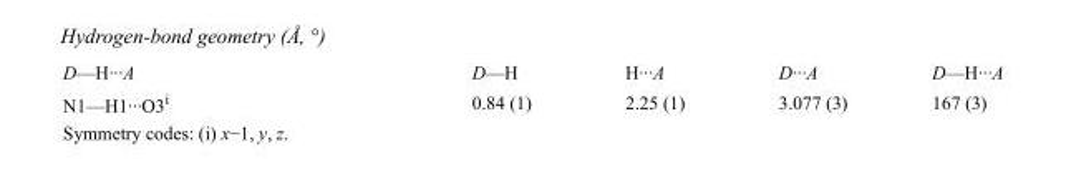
<table><tbody><tr><td>D—H···A</td><td>D—H</td><td>H···A</td><td>D···A</td><td>D—H···A</td></tr><tr><td>N1—H1···O3<sup>i</sup></td><td>0.84 (1)</td><td>2.25 (1)</td><td>3.077 (3)</td><td>167 (3)</td></tr></tbody></table>